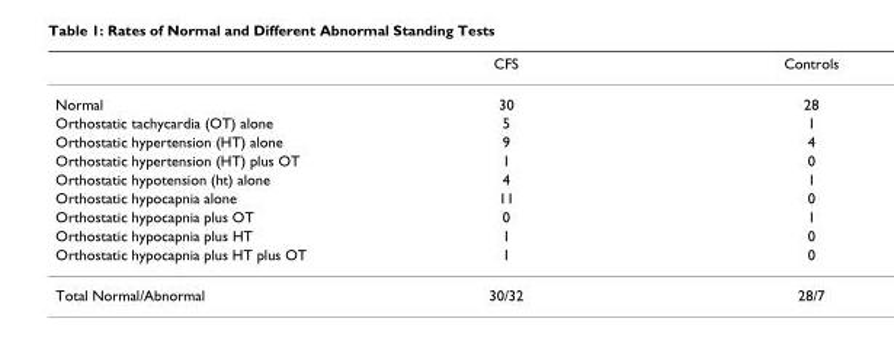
<table><thead><tr><td></td><td>CFS</td><td>Controls</td></tr></thead><tbody><tr><td>Normal</td><td>30</td><td>28</td></tr><tr><td>Orthostatic tachycardia (OT) alone</td><td>5</td><td>1</td></tr><tr><td>Orthostatic hypertension (HT) alone</td><td>9</td><td>4</td></tr><tr><td>Orthostatic hypertension (HT) plus OT</td><td>1</td><td>0</td></tr><tr><td>Orthostatic hypotension (ht) alone</td><td>4</td><td>1</td></tr><tr><td>Orthostatic hypocapnia alone</td><td>11</td><td>0</td></tr><tr><td>Orthostatic hypocapnia plus OT</td><td>0</td><td>1</td></tr><tr><td>Orthostatic hypocapnia plus HT</td><td>1</td><td>0</td></tr><tr><td>Orthostatic hypocapnia plus HT plus OT</td><td>1</td><td>0</td></tr><tr><td>Total Normal/Abnormal</td><td>30/32</td><td>28/7</td></tr></tbody></table>